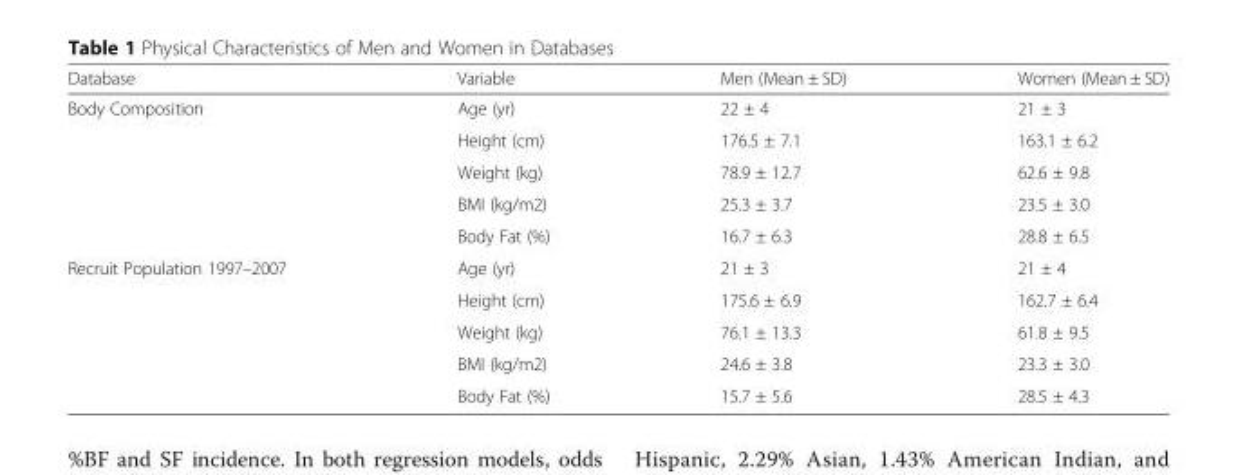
<table><thead><tr><td>Database</td><td>Variable</td><td>Men (Mean ± SD)</td><td>Women (Mean ± SD)</td></tr></thead><tbody><tr><td rowspan="5">Body Composition</td><td>Age (yr)</td><td>22 ± 4</td><td>21 ± 3</td></tr><tr><td>Height (cm)</td><td>176.5 ± 7.1</td><td>163.1 ± 6.2</td></tr><tr><td>Weight (kg)</td><td>78.9 ± 12.7</td><td>62.6 ± 9.8</td></tr><tr><td>BMI (kg/m2)</td><td>25.3 ± 3.7</td><td>23.5 ± 3.0</td></tr><tr><td>Body Fat (%)</td><td>16.7 ± 6.3</td><td>28.8 ± 6.5</td></tr><tr><td rowspan="5">Recruit Population 1997–2007</td><td>Age (yr)</td><td>21 ± 3</td><td>21 ± 4</td></tr><tr><td>Height (cm)</td><td>175.6 ± 6.9</td><td>162.7 ± 6.4</td></tr><tr><td>Weight (kg)</td><td>76.1 ± 13.3</td><td>61.8 ± 9.5</td></tr><tr><td>BMI (kg/m2)</td><td>24.6 ± 3.8</td><td>23.3 ± 3.0</td></tr><tr><td>Body Fat (%)</td><td>15.7 ± 5.6</td><td>28.5 ± 4.3</td></tr></tbody></table>